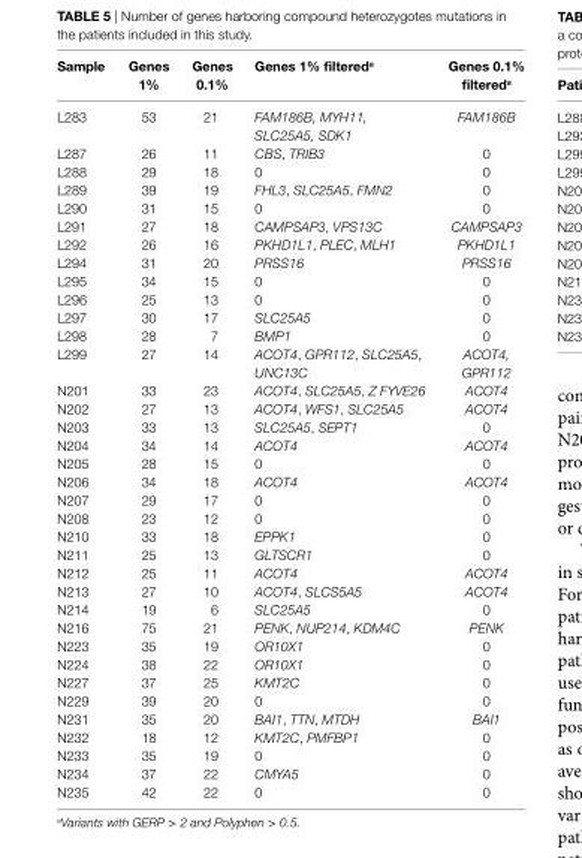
<table><thead><tr><td>sample</td><td>genes 1%</td><td>genes 0.1%</td><td>genes 1% filtered<sup>a</sup></td><td>genes 0.1% filtered<sup>a</sup></td></tr></thead><tbody><tr><td>L283</td><td>53</td><td>21</td><td>FAM186B, MYH11, SLC25A5, SDK1</td><td>FAM186B</td></tr><tr><td>L287</td><td>26</td><td>11</td><td>CBS, TRIB3</td><td>0</td></tr><tr><td>L288</td><td>29</td><td>18</td><td>0</td><td>0</td></tr><tr><td>L289</td><td>39</td><td>19</td><td>FHL3, SLC25A5, FMN2</td><td>0</td></tr><tr><td>L290</td><td>31</td><td>15</td><td>0</td><td>0</td></tr><tr><td>L291</td><td>27</td><td>18</td><td>CAMPSAP3, VPS13C</td><td>CAMPSAP3</td></tr><tr><td>L292</td><td>26</td><td>16</td><td>PKHD1L1, PLEC, MLH1</td><td>PKHD1L1</td></tr><tr><td>L294</td><td>31</td><td>20</td><td>PRSS16</td><td>PRSS16</td></tr><tr><td>L295</td><td>34</td><td>15</td><td>0</td><td>0</td></tr><tr><td>L296</td><td>25</td><td>13</td><td>0</td><td>0</td></tr><tr><td>L297</td><td>30</td><td>17</td><td>SLC25A5</td><td>0</td></tr><tr><td>L298</td><td>28</td><td>7</td><td>BMP1</td><td>0</td></tr><tr><td>L299</td><td>27</td><td>14</td><td>ACOT4, GPR112, SLC25A5, UNC13C</td><td>ACOT4, GPR112</td></tr><tr><td>N201</td><td>33</td><td>23</td><td>ACOT4, SLC25A5, Z FYVE26</td><td>ACOT4</td></tr><tr><td>N202</td><td>27</td><td>13</td><td>ACOT4, WFS1, SLC25A5</td><td>ACOT4</td></tr><tr><td>N203</td><td>33</td><td>13</td><td>SLC25A5, SEPT1</td><td>0</td></tr><tr><td>N204</td><td>34</td><td>14</td><td>ACOT4</td><td>ACOT4</td></tr><tr><td>N205</td><td>28</td><td>15</td><td>0</td><td>0</td></tr><tr><td>N206</td><td>34</td><td>18</td><td>ACOT4</td><td>ACOT4</td></tr><tr><td>N207</td><td>29</td><td>17</td><td>0</td><td>0</td></tr><tr><td>N208</td><td>23</td><td>12</td><td>0</td><td>0</td></tr><tr><td>N210</td><td>33</td><td>18</td><td>EPPK1</td><td>0</td></tr><tr><td>N211</td><td>25</td><td>13</td><td>GLTSCR1</td><td>0</td></tr><tr><td>N212</td><td>25</td><td>11</td><td>ACOT4</td><td>ACOT4</td></tr><tr><td>N213</td><td>27</td><td>10</td><td>ACOT4, SLCS5A5</td><td>ACOT4</td></tr><tr><td>N214</td><td>19</td><td>6</td><td>SLC25A5</td><td>0</td></tr><tr><td>N216</td><td>75</td><td>21</td><td>PENK, NUP214, KDM4C</td><td>PENK</td></tr><tr><td>N223</td><td>35</td><td>19</td><td>OR10X1</td><td>0</td></tr><tr><td>N224</td><td>38</td><td>22</td><td>OR10X1</td><td>0</td></tr><tr><td>N227</td><td>37</td><td>25</td><td>KMT2C</td><td>0</td></tr><tr><td>N229</td><td>39</td><td>20</td><td>0</td><td>0</td></tr><tr><td>N231</td><td>35</td><td>20</td><td>BAI1, TTN, MTDH</td><td>BAI1</td></tr><tr><td>N232</td><td>18</td><td>12</td><td>KMT2C, PMFBP1</td><td>0</td></tr><tr><td>N233</td><td>35</td><td>19</td><td>0</td><td>0</td></tr><tr><td>N234</td><td>37</td><td>22</td><td>CMYA5</td><td>0</td></tr><tr><td>N235</td><td>42</td><td>22</td><td>0</td><td>0</td></tr></tbody></table>